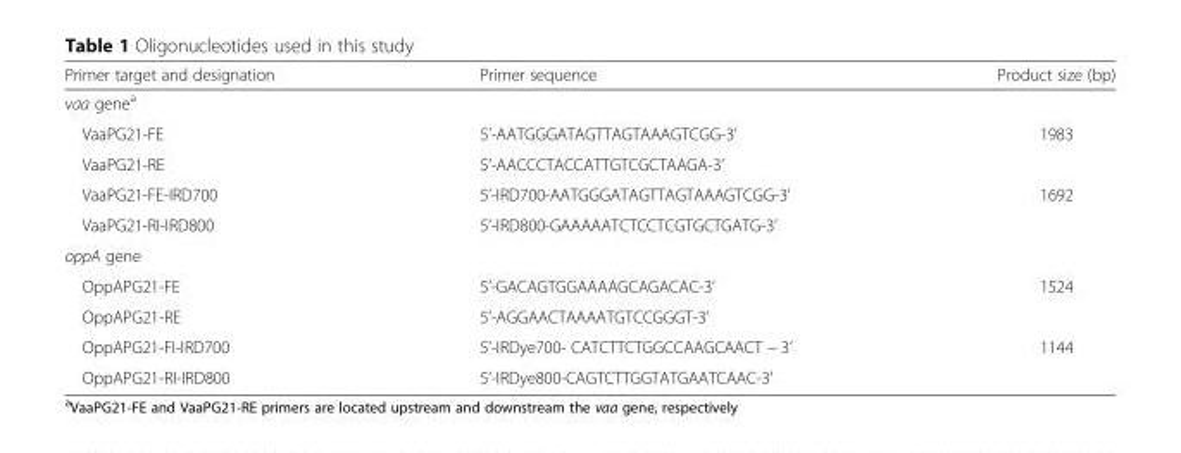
<table><thead><tr><td>Primer target and designation</td><td>Primer sequence</td><td>Product size (bp)</td></tr></thead><tbody><tr><td colspan="3">vaa gene<sup>a</sup></td></tr><tr><td>VaaPG21-FE</td><td>5’-AATGGGATAGTTAGTAAAGTCGG-3’</td><td>1983</td></tr><tr><td>VaaPG21-RE</td><td>5’-AACCCTACCATTGTCGCTAAGA-3’</td><td></td></tr><tr><td>VaaPG21-FE-IRD700</td><td>5’-IRD700-AATGGGATAGTTAGTAAAGTCGG-3’</td><td>1692</td></tr><tr><td>VaaPG21-RI-IRD800</td><td>5’-IRD800-GAAAAATCTCCTCGTGCTGATG-3’</td><td></td></tr><tr><td colspan="3">oppA gene</td></tr><tr><td>OppAPG21-FE</td><td>5’-GACAGTGGAAAAGCAGACAC-3’</td><td>1524</td></tr><tr><td>OppAPG21-RE</td><td>5’-AGGAACTAAAATGTCCGGGT-3’</td><td></td></tr><tr><td>OppAPG21-FI-IRD700</td><td>5’-IRDye700- CATCTTCTGGCCAAGCAACT − 3’</td><td>1144</td></tr><tr><td>OppAPG21-RI-IRD800</td><td>5’-IRDye800-CAGTCTTGGTATGAATCAAC-3’</td><td></td></tr></tbody></table>